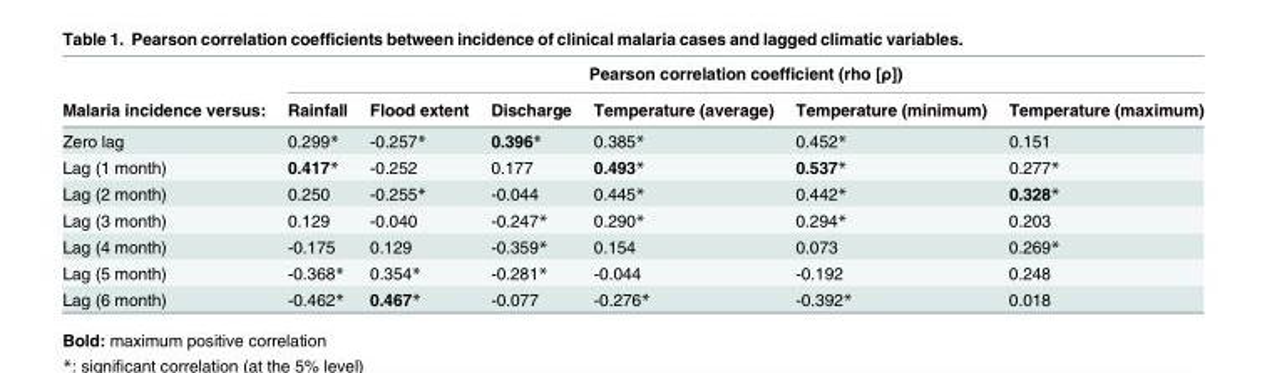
<table><thead><tr><td rowspan="2">Malaria incidence versus:</td><td colspan="6">Pearson correlation coefficient (rho [ρ])</td></tr><tr><td>Rainfall</td><td>Flood extent</td><td>Discharge</td><td>Temperature (average)</td><td>Temperature (minimum)</td><td>Temperature (maximum)</td></tr></thead><tbody><tr><td>Zero lag</td><td>0.299*</td><td>-0.257*</td><td>0.396*</td><td>0.385*</td><td>0.452*</td><td>0.151</td></tr><tr><td>Lag (1 month)</td><td>0.417*</td><td>-0.252</td><td>0.177</td><td>0.493*</td><td>0.537*</td><td>0.277*</td></tr><tr><td>Lag (2 month)</td><td>0.250</td><td>-0.255*</td><td>-0.044</td><td>0.445*</td><td>0.442*</td><td>0.328*</td></tr><tr><td>Lag (3 month)</td><td>0.129</td><td>-0.040</td><td>-0.247*</td><td>0.290*</td><td>0.294*</td><td>0.203</td></tr><tr><td>Lag (4 month)</td><td>-0.175</td><td>0.129</td><td>-0.359*</td><td>0.154</td><td>0.073</td><td>0.269*</td></tr><tr><td>Lag (5 month)</td><td>-0.368*</td><td>0.354*</td><td>-0.281*</td><td>-0.044</td><td>-0.192</td><td>0.248</td></tr><tr><td>Lag (6 month)</td><td>-0.462*</td><td>0.467*</td><td>-0.077</td><td>-0.276*</td><td>-0.392*</td><td>0.018</td></tr></tbody></table>